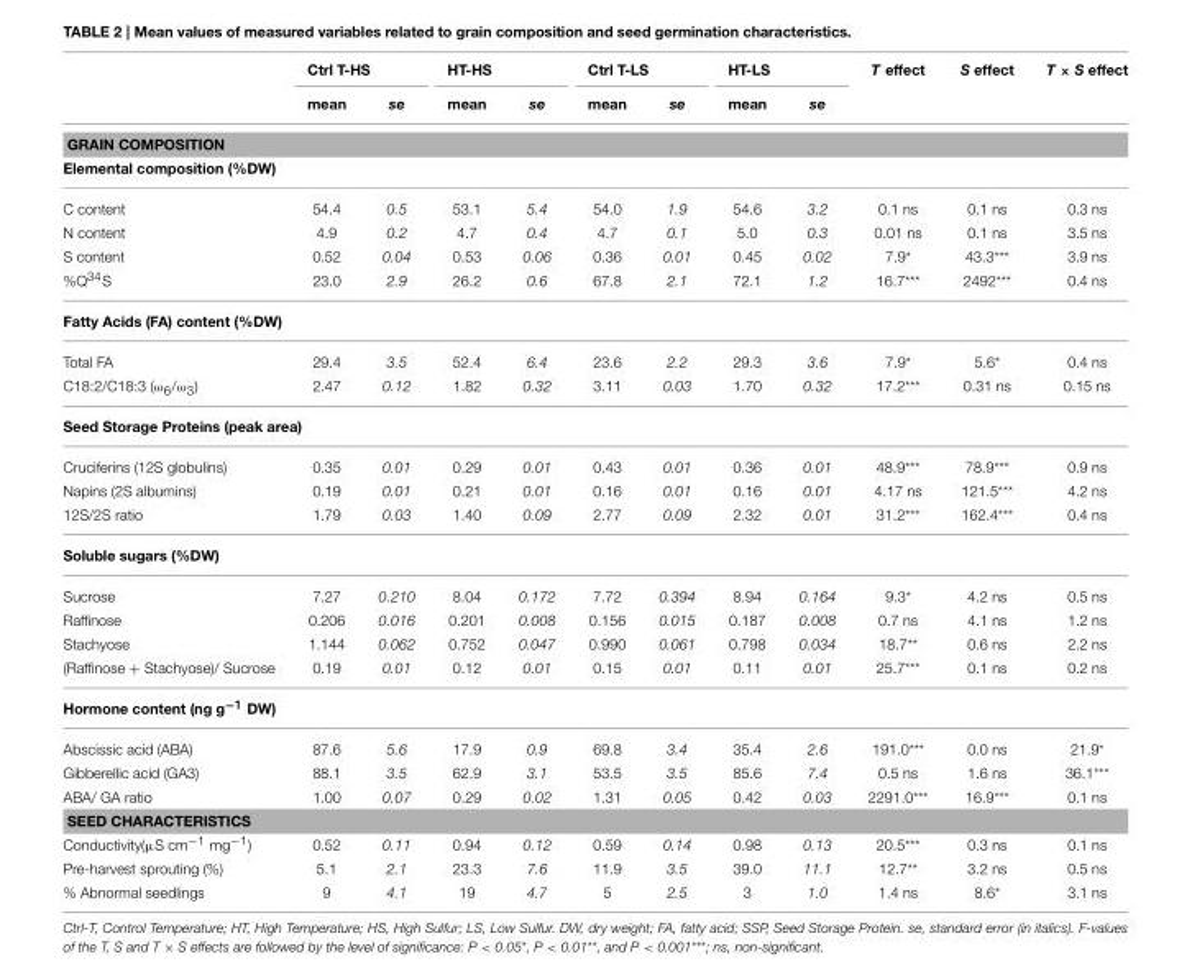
<table><thead><tr><td rowspan="2"></td><td colspan="2">Ctrl T-HS</td><td colspan="2">HT-HS</td><td colspan="2">Ctrl T-LS</td><td colspan="2">HT-LS</td><td rowspan="2">T effect</td><td rowspan="2">S effect</td><td rowspan="2">T × S effect</td></tr><tr><td>mean</td><td>se</td><td>mean</td><td>se</td><td>mean</td><td>se</td><td>mean</td><td>se</td></tr></thead><tbody><tr><td colspan="12">GRAIN COMPOSITION</td></tr><tr><td colspan="12">Elemental composition (%DW)</td></tr><tr><td>C content</td><td>54.4</td><td>0.5</td><td>53.1</td><td>5.4</td><td>54.0</td><td>1.9</td><td>54.6</td><td>3.2</td><td>0.1 ns</td><td>0.1 ns</td><td>0.3 ns</td></tr><tr><td>N content</td><td>4.9</td><td>0.2</td><td>4.7</td><td>0.4</td><td>4.7</td><td>0.1</td><td>5.0</td><td>0.3</td><td>0.01 ns</td><td>0.1 ns</td><td>3.5 ns</td></tr><tr><td>S content</td><td>0.52</td><td>0.04</td><td>0.53</td><td>0.06</td><td>0.36</td><td>0.01</td><td>0.45</td><td>0.02</td><td>7.9*</td><td>43.3***</td><td>3.9 ns</td></tr><tr><td>%Q<sup>34</sup>S</td><td>23.0</td><td>2.9</td><td>26.2</td><td>0.6</td><td>67.8</td><td>2.1</td><td>72.1</td><td>1.2</td><td>16.7***</td><td>2492***</td><td>0.4 ns</td></tr><tr><td colspan="12">Fatty Acids (FA) content (%DW)</td></tr><tr><td>Total FA</td><td>29.4</td><td>3.5</td><td>52.4</td><td>6.4</td><td>23.6</td><td>2.2</td><td>29.3</td><td>3.6</td><td>7.9*</td><td>5.6*</td><td>0.4 ns</td></tr><tr><td>C18:2/C18:3 (ω<sub>6</sub>/ω<sub>3</sub>)</td><td>2.47</td><td>0.12</td><td>1.82</td><td>0.32</td><td>3.11</td><td>0.03</td><td>1.70</td><td>0.32</td><td>17.2***</td><td>0.31 ns</td><td>0.15 ns</td></tr><tr><td colspan="12">Seed Storage Proteins (peak area)</td></tr><tr><td>Cruciferins (12S globulins)</td><td>0.35</td><td>0.01</td><td>0.29</td><td>0.01</td><td>0.43</td><td>0.01</td><td>0.36</td><td>0.01</td><td>48.9***</td><td>78.9***</td><td>0.9 ns</td></tr><tr><td>Napins (2S albumins)</td><td>0.19</td><td>0.01</td><td>0.21</td><td>0.01</td><td>0.16</td><td>0.01</td><td>0.16</td><td>0.01</td><td>4.17 ns</td><td>121.5***</td><td>4.2 ns</td></tr><tr><td>12S/2S ratio</td><td>1.79</td><td>0.03</td><td>1.40</td><td>0.09</td><td>2.77</td><td>0.09</td><td>2.32</td><td>0.01</td><td>31.2***</td><td>162.4***</td><td>0.4 ns</td></tr><tr><td colspan="12">Soluble sugars (%DW)</td></tr><tr><td>Sucrose</td><td>7.27</td><td>0.210</td><td>8.04</td><td>0.172</td><td>7.72</td><td>0.394</td><td>8.94</td><td>0.164</td><td>9.3*</td><td>4.2 ns</td><td>0.5 ns</td></tr><tr><td>Raffinose</td><td>0.206</td><td>0.016</td><td>0.201</td><td>0.008</td><td>0.156</td><td>0.015</td><td>0.187</td><td>0.008</td><td>0.7 ns</td><td>4.1 ns</td><td>1.2 ns</td></tr><tr><td>Stachyose</td><td>1.144</td><td>0.062</td><td>0.752</td><td>0.047</td><td>0.990</td><td>0.061</td><td>0.798</td><td>0.034</td><td>18.7**</td><td>0.6 ns</td><td>2.2 ns</td></tr><tr><td>(Raffinose + Stachyose)/ Sucrose</td><td>0.19</td><td>0.01</td><td>0.12</td><td>0.01</td><td>0.15</td><td>0.01</td><td>0.11</td><td>0.01</td><td>25.7***</td><td>0.1 ns</td><td>0.2 ns</td></tr><tr><td colspan="12">Hormone content (ng g<sup>−1</sup> DW)</td></tr><tr><td>Abscissic acid (ABA)</td><td>87.6</td><td>5.6</td><td>17.9</td><td>0.9</td><td>69.8</td><td>3.4</td><td>35.4</td><td>2.6</td><td>191.0***</td><td>0.0 ns</td><td>21.9*</td></tr><tr><td>Gibberellic acid (GA3)</td><td>88.1</td><td>3.5</td><td>62.9</td><td>3.1</td><td>53.5</td><td>3.5</td><td>85.6</td><td>7.4</td><td>0.5 ns</td><td>1.6 ns</td><td>36.1***</td></tr><tr><td>ABA/ GA ratio</td><td>1.00</td><td>0.07</td><td>0.29</td><td>0.02</td><td>1.31</td><td>0.05</td><td>0.42</td><td>0.03</td><td>2291.0***</td><td>16.9***</td><td>0.1 ns</td></tr><tr><td colspan="12">SEED CHARACTERISTICS</td></tr><tr><td>Conductivity(µS cm<sup>−1</sup> mg<sup>−1</sup>)</td><td>0.52</td><td>0.11</td><td>0.94</td><td>0.12</td><td>0.59</td><td>0.14</td><td>0.98</td><td>0.13</td><td>20.5***</td><td>0.3 ns</td><td>0.1 ns</td></tr><tr><td>Pre-harvest sprouting (%)</td><td>5.1</td><td>2.1</td><td>23.3</td><td>7.6</td><td>11.9</td><td>3.5</td><td>39.0</td><td>11.1</td><td>12.7**</td><td>3.2 ns</td><td>0.5 ns</td></tr><tr><td>% Abnormal seedlings</td><td>9</td><td>4.1</td><td>19</td><td>4.7</td><td>5</td><td>2.5</td><td>3</td><td>1.0</td><td>1.4 ns</td><td>8.6*</td><td>3.1 ns</td></tr></tbody></table>